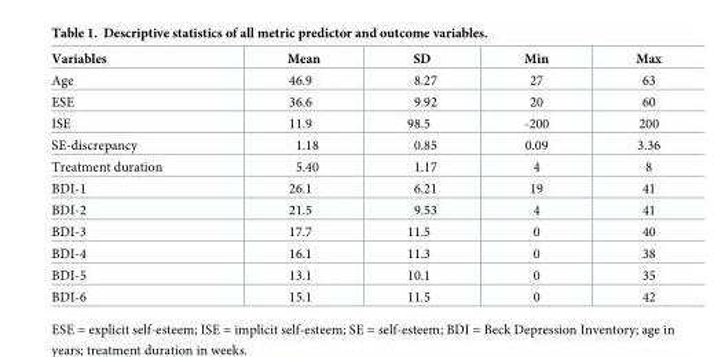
<table><thead><tr><td>Variables</td><td>Mean</td><td>SD</td><td>Min</td><td>Max</td></tr></thead><tbody><tr><td>Age</td><td>46.9</td><td>8.27</td><td>27</td><td>63</td></tr><tr><td>ESE</td><td>36.6</td><td>9.92</td><td>20</td><td>60</td></tr><tr><td>ISE</td><td>11.9</td><td>98.5</td><td>-200</td><td>200</td></tr><tr><td>SE-discrepancy</td><td>1.18</td><td>0.85</td><td>0.09</td><td>3.36</td></tr><tr><td>Treatment duration</td><td>5.40</td><td>1.17</td><td>4</td><td>8</td></tr><tr><td>BDI-1</td><td>26.1</td><td>6.21</td><td>19</td><td>41</td></tr><tr><td>BDI-2</td><td>21.5</td><td>9.53</td><td>4</td><td>41</td></tr><tr><td>BDI-3</td><td>17.7</td><td>11.5</td><td>0</td><td>40</td></tr><tr><td>BDI-4</td><td>16.1</td><td>11.3</td><td>0</td><td>38</td></tr><tr><td>BDI-5</td><td>13.1</td><td>10.1</td><td>0</td><td>35</td></tr><tr><td>BDI-6</td><td>15.1</td><td>11.5</td><td>0</td><td>42</td></tr></tbody></table>